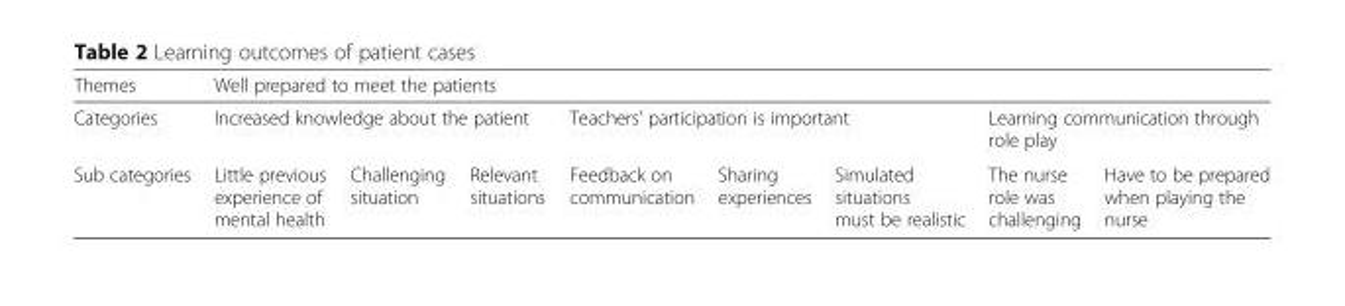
<table><thead><tr><td rowspan="3">Themes Categories Sub categories</td><td colspan="8">Well prepared to meet the patients</td></tr><tr><td colspan="3">Increased knowledge about the patient</td><td colspan="3">Teachers’ participation is important</td><td colspan="2">Learning communication through role play</td></tr><tr><td>Little previous experience of mental health</td><td>Challenging situation</td><td>Relevant situations</td><td>Feedback on communication</td><td>Sharing experiences</td><td>Simulated situations must be realistic</td><td>The nurse role was challenging</td><td>Have to be prepared when playing the nurse</td></tr></thead><tbody></tbody></table>